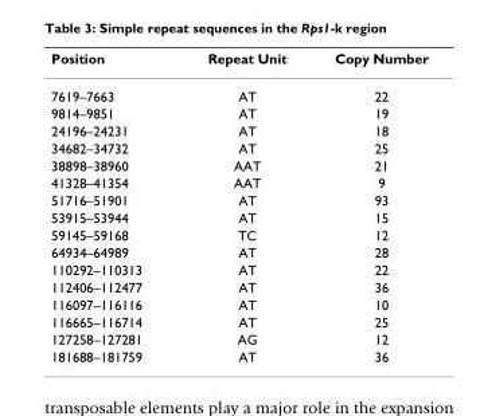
<table><thead><tr><td>Position</td><td>Repeat Unit</td><td>Copy Number</td></tr></thead><tbody><tr><td>7619–7663</td><td>AT</td><td>22</td></tr><tr><td>9814–9851</td><td>AT</td><td>19</td></tr><tr><td>24196–24231</td><td>AT</td><td>18</td></tr><tr><td>34682–34732</td><td>AT</td><td>25</td></tr><tr><td>38898–38960</td><td>AAT</td><td>21</td></tr><tr><td>41328–41354</td><td>AAT</td><td>9</td></tr><tr><td>51716–51901</td><td>AT</td><td>93</td></tr><tr><td>53915–53944</td><td>AT</td><td>15</td></tr><tr><td>59145–59168</td><td>TC</td><td>12</td></tr><tr><td>64934–64989</td><td>AT</td><td>28</td></tr><tr><td>110292–110313</td><td>AT</td><td>22</td></tr><tr><td>112406–112477</td><td>AT</td><td>36</td></tr><tr><td>116097–116116</td><td>AT</td><td>10</td></tr><tr><td>116665–116714</td><td>AT</td><td>25</td></tr><tr><td>127258–127281</td><td>AG</td><td>12</td></tr><tr><td>181688–181759</td><td>AT</td><td>36</td></tr></tbody></table>